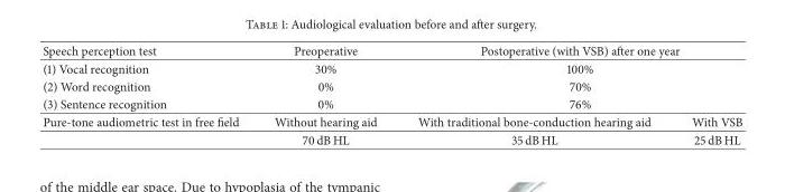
<table><thead><tr><td>Speech perception test</td><td>Preoperative</td><td colspan="2">Postoperative (with VSB) after one year</td></tr></thead><tbody><tr><td>(1) Vocal recognition</td><td>30%</td><td colspan="2">100%</td></tr><tr><td>(2) Word recognition</td><td>0%</td><td colspan="2">70%</td></tr><tr><td>(3) Sentence recognition</td><td>0%</td><td colspan="2">76%</td></tr><tr><td rowspan="2">Pure-tone audiometric test in free field</td><td>Without hearing aid</td><td>With traditional bone-conduction hearing aid</td><td>With VSB</td></tr><tr><td>70 dB HL</td><td>35 dB HL</td><td>25 dB HL</td></tr></tbody></table>